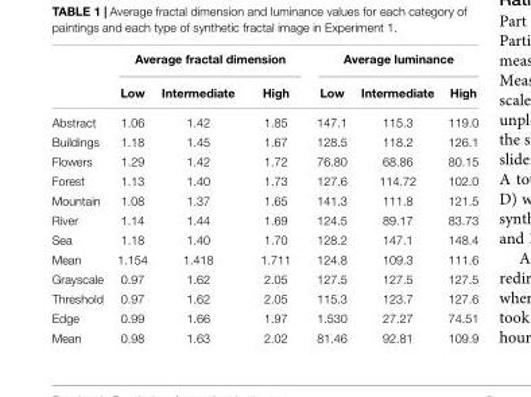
<table><thead><tr><td rowspan="2"></td><td colspan="3">Average fractal dimension</td><td colspan="3">Average luminance</td></tr><tr><td>Low</td><td>Intermediate</td><td>High</td><td>Low</td><td>Intermediate</td><td>High</td></tr></thead><tbody><tr><td>Abstract</td><td>1.06</td><td>1.42</td><td>1.85</td><td>147.1</td><td>115.3</td><td>119.0</td></tr><tr><td>Buildings</td><td>1.18</td><td>1.45</td><td>1.67</td><td>128.5</td><td>118.2</td><td>126.1</td></tr><tr><td>Flowers</td><td>1.29</td><td>1.42</td><td>1.72</td><td>76.80</td><td>68.86</td><td>80.15</td></tr><tr><td>Forest</td><td>1.13</td><td>1.40</td><td>1.73</td><td>127.6</td><td>114.72</td><td>102.0</td></tr><tr><td>Mountain</td><td>1.08</td><td>1.37</td><td>1.65</td><td>141.3</td><td>111.8</td><td>121.5</td></tr><tr><td>River</td><td>1.14</td><td>1.44</td><td>1.69</td><td>124.5</td><td>89.17</td><td>83.73</td></tr><tr><td>Sea</td><td>1.18</td><td>1.40</td><td>1.70</td><td>128.2</td><td>147.1</td><td>148.4</td></tr><tr><td>Mean</td><td>1.154</td><td>1.418</td><td>1.711</td><td>124.8</td><td>109.3</td><td>111.6</td></tr><tr><td>Grayscale</td><td>0.97</td><td>1.62</td><td>2.05</td><td>127.5</td><td>127.5</td><td>127.5</td></tr><tr><td>Threshold</td><td>0.97</td><td>1.62</td><td>2.05</td><td>115.3</td><td>123.7</td><td>127.6</td></tr><tr><td>Edge</td><td>0.99</td><td>1.66</td><td>1.97</td><td>1.530</td><td>27.27</td><td>74.51</td></tr><tr><td>Mean</td><td>0.98</td><td>1.63</td><td>2.02</td><td>81.46</td><td>92.81</td><td>109.9</td></tr></tbody></table>